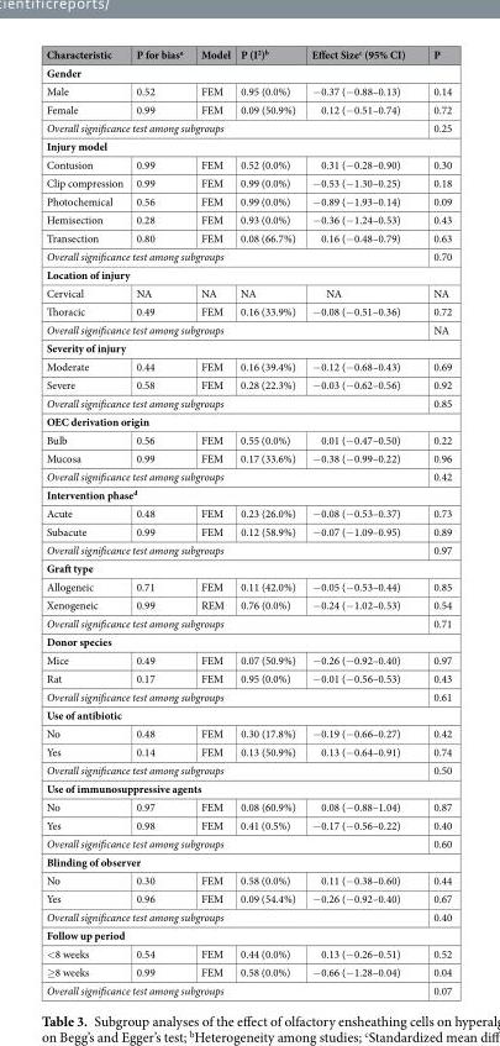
<table><thead><tr><td>Characteristic</td><td>P for bias<sup>a</sup></td><td>Model</td><td>P (I<sup>2</sup>)<sup>b</sup></td><td>Effect Size<sup>c</sup> (95% CI)</td><td>P</td></tr></thead><tbody><tr><td colspan="6">Gender</td></tr><tr><td>Male</td><td>0.52</td><td>FEM</td><td>0.95 (0.0%)</td><td>−0.37 (−0.88–0.13)</td><td>0.14</td></tr><tr><td>Female</td><td>0.99</td><td>FEM</td><td>0.09 (50.9%)</td><td>0.12 (−0.51–0.74)</td><td>0.72</td></tr><tr><td colspan="5">Overall significance test among subgroups</td><td>0.25</td></tr><tr><td colspan="6">Injury model</td></tr><tr><td>Contusion</td><td>0.99</td><td>FEM</td><td>0.52 (0.0%)</td><td>0.31 (−0.28–0.90)</td><td>0.30</td></tr><tr><td>Clip compression</td><td>0.99</td><td>FEM</td><td>0.99 (0.0%)</td><td>−0.53 (−1.30–0.25)</td><td>0.18</td></tr><tr><td>Photochemical</td><td>0.56</td><td>FEM</td><td>0.99 (0.0%)</td><td>−0.89 (−1.93–0.14)</td><td>0.09</td></tr><tr><td>Hemisection</td><td>0.28</td><td>FEM</td><td>0.93 (0.0%)</td><td>−0.36 (−1.24–0.53)</td><td>0.43</td></tr><tr><td>Transection</td><td>0.80</td><td>FEM</td><td>0.08 (66.7%)</td><td>0.16 (−0.48–0.79)</td><td>0.63</td></tr><tr><td colspan="5">Overall significance test among subgroups</td><td>0.70</td></tr><tr><td colspan="6">Location of injury</td></tr><tr><td>Cervical</td><td>NA</td><td>NA</td><td>NA</td><td>NA</td><td>NA</td></tr><tr><td>Thoracic</td><td>0.49</td><td>FEM</td><td>0.16 (33.9%)</td><td>−0.08 (−0.51–0.36)</td><td>0.72</td></tr><tr><td colspan="5">Overall significance test among subgroups</td><td>NA</td></tr><tr><td colspan="6">Severity of injury</td></tr><tr><td>Moderate</td><td>0.44</td><td>FEM</td><td>0.16 (39.4%)</td><td>−0.12 (−0.68–0.43)</td><td>0.69</td></tr><tr><td>Severe</td><td>0.58</td><td>FEM</td><td>0.28 (22.3%)</td><td>−0.03 (−0.62–0.56)</td><td>0.92</td></tr><tr><td colspan="5">Overall significance test among subgroups</td><td>0.85</td></tr><tr><td colspan="6">OEC derivation origin</td></tr><tr><td>Bulb</td><td>0.56</td><td>FEM</td><td>0.55 (0.0%)</td><td>0.01 (−0.47–0.50)</td><td>0.22</td></tr><tr><td>Mucosa</td><td>0.99</td><td>FEM</td><td>0.17 (33.6%)</td><td>−0.38 (−0.99–0.22)</td><td>0.96</td></tr><tr><td colspan="5">Overall significance test among subgroups</td><td>0.42</td></tr><tr><td colspan="6">Intervention phase<sup>d</sup></td></tr><tr><td>Acute</td><td>0.48</td><td>FEM</td><td>0.23 (26.0%)</td><td>−0.08 (−0.53–0.37)</td><td>0.73</td></tr><tr><td>Subacute</td><td>0.99</td><td>FEM</td><td>0.12 (58.9%)</td><td>−0.07 (−1.09–0.95)</td><td>0.89</td></tr><tr><td colspan="5">Overall significance test among subgroups</td><td>0.97</td></tr><tr><td colspan="6">Graft type</td></tr><tr><td>Allogeneic</td><td>0.71</td><td>FEM</td><td>0.11 (42.0%)</td><td>−0.05 (−0.53–0.44)</td><td>0.85</td></tr><tr><td>Xenogeneic</td><td>0.99</td><td>REM</td><td>0.76 (0.0%)</td><td>−0.24 (−1.02–0.53)</td><td>0.54</td></tr><tr><td colspan="5">Overall significance test among subgroups</td><td>0.71</td></tr><tr><td colspan="6">Donor species</td></tr><tr><td>Mice</td><td>0.49</td><td>FEM</td><td>0.07 (50.9%)</td><td>−0.26 (−0.92–0.40)</td><td>0.97</td></tr><tr><td>Rat</td><td>0.17</td><td>FEM</td><td>0.95 (0.0%)</td><td>−0.01 (−0.56–0.53)</td><td>0.43</td></tr><tr><td colspan="5">Overall significance test among subgroups</td><td>0.61</td></tr><tr><td colspan="6">Use of antibiotic</td></tr><tr><td>No</td><td>0.48</td><td>FEM</td><td>0.30 (17.8%)</td><td>−0.19 (−0.66–0.27)</td><td>0.42</td></tr><tr><td>Yes</td><td>0.14</td><td>FEM</td><td>0.13 (50.9%)</td><td>0.13 (−0.64–0.91)</td><td>0.74</td></tr><tr><td colspan="5">Overall significance test among subgroups</td><td>0.50</td></tr><tr><td colspan="6">Use of immunosuppressive agents</td></tr><tr><td>No</td><td>0.97</td><td>FEM</td><td>0.08 (60.9%)</td><td>0.08 (−0.88–1.04)</td><td>0.87</td></tr><tr><td>Yes</td><td>0.98</td><td>FEM</td><td>0.41 (0.5%)</td><td>−0.17 (−0.56–0.22)</td><td>0.40</td></tr><tr><td colspan="5">Overall significance test among subgroups</td><td>0.60</td></tr><tr><td colspan="6">Blinding of observer</td></tr><tr><td>No</td><td>0.30</td><td>FEM</td><td>0.58 (0.0%)</td><td>0.11 (−0.38–0.60)</td><td>0.44</td></tr><tr><td>Yes</td><td>0.96</td><td>FEM</td><td>0.09 (54.4%)</td><td>−0.26 (−0.92–0.40)</td><td>0.67</td></tr><tr><td colspan="5">Overall significance test among subgroups</td><td>0.40</td></tr><tr><td colspan="6">Follow up period</td></tr><tr><td>&lt;8 weeks</td><td>0.54</td><td>FEM</td><td>0.44 (0.0%)</td><td>0.13 (−0.26–0.51)</td><td>0.52</td></tr><tr><td>≥8 weeks</td><td>0.99</td><td>FEM</td><td>0.58 (0.0%)</td><td>−0.66 (−1.28–0.04)</td><td>0.04</td></tr><tr><td colspan="5">Overall significance test among subgroups</td><td>0.07</td></tr></tbody></table>